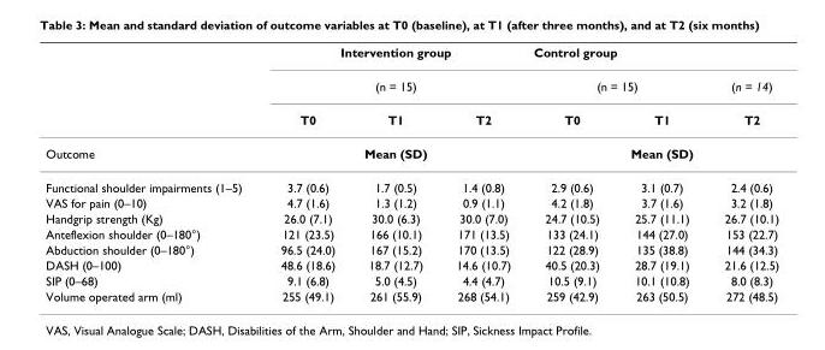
<table><thead><tr><td rowspan="3"></td><td rowspan="2" colspan="3">Intervention group (n = 15)</td><td colspan="3">Control group</td></tr><tr><td colspan="2">(n = 15)</td><td rowspan="2">(n = 14) T2</td></tr><tr><td>T0</td><td>T1</td><td>T2</td><td>T0</td><td>T1</td></tr></thead><tbody><tr><td>Outcome</td><td colspan="3">Mean (SD)</td><td colspan="3">Mean (SD)</td></tr><tr><td>Functional shoulder impairments (1–5)</td><td>3.7 (0.6)</td><td>1.7 (0.5)</td><td>1.4 (0.8)</td><td>2.9 (0.6)</td><td>3.1 (0.7)</td><td>2.4 (0.6)</td></tr><tr><td>VAS for pain (0–10)</td><td>4.7 (1.6)</td><td>1.3 (1.2)</td><td>0.9 (1.1)</td><td>4.2 (1.8)</td><td>3.7 (1.6)</td><td>3.2 (1.8)</td></tr><tr><td>Handgrip strength (Kg)</td><td>26.0 (7.1)</td><td>30.0 (6.3)</td><td>30.0 (7.0)</td><td>24.7 (10.5)</td><td>25.7 (11.1)</td><td>26.7 (10.1)</td></tr><tr><td>Anteflexion shoulder (0–180°)</td><td>121 (23.5)</td><td>166 (10.1)</td><td>171 (13.5)</td><td>133 (24.1)</td><td>144 (27.0)</td><td>153 (22.7)</td></tr><tr><td>Abduction shoulder (0–180°)</td><td>96.5 (24.0)</td><td>167 (15.2)</td><td>170 (13.5)</td><td>122 (28.9)</td><td>135 (38.8)</td><td>144 (34.3)</td></tr><tr><td>DASH (0–100)</td><td>48.6 (18.6)</td><td>18.7 (12.7)</td><td>14.6 (10.7)</td><td>40.5 (20.3)</td><td>28.7 (19.1)</td><td>21.6 (12.5)</td></tr><tr><td>SIP (0–68)</td><td>9.1 (6.8)</td><td>5.0 (4.5)</td><td>4.4 (4.7)</td><td>10.5 (9.1)</td><td>10.1 (10.8)</td><td>8.0 (8.3)</td></tr><tr><td>Volume operated arm (ml)</td><td>255 (49.1)</td><td>261 (55.9)</td><td>268 (54.1)</td><td>259 (42.9)</td><td>263 (50.5)</td><td>272 (48.5)</td></tr></tbody></table>